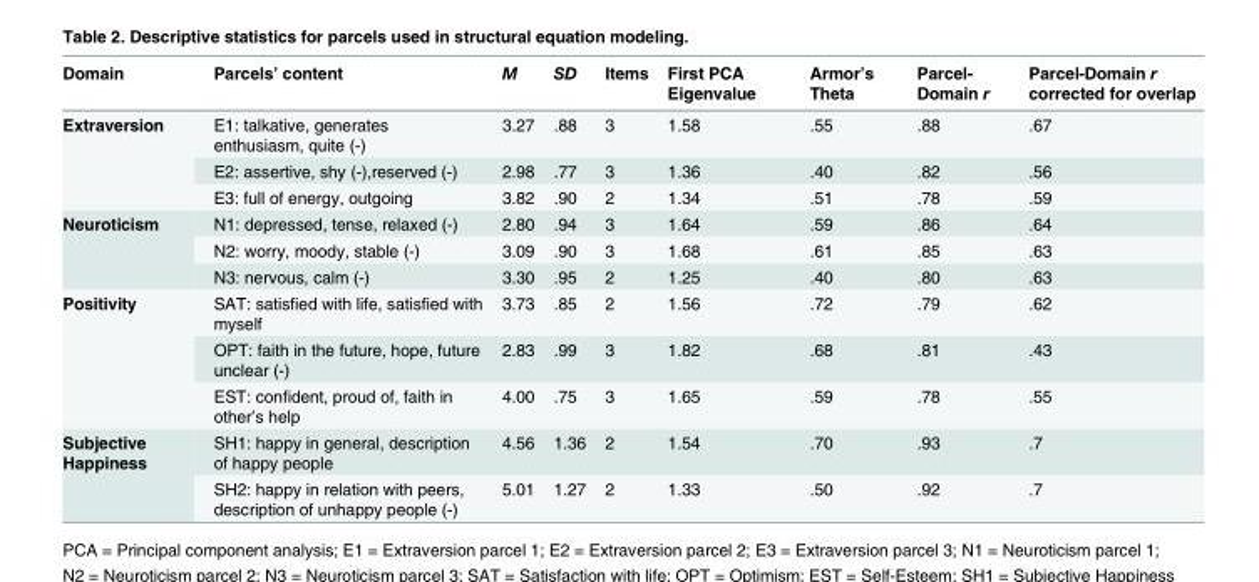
<table><thead><tr><td>Domain</td><td>Parcels’ content</td><td>M</td><td>SD</td><td>Items</td><td>First PCA Eigenvalue</td><td>Armor’s Theta</td><td>Parcel- Domain r</td><td>Parcel-Domain r corrected for overlap</td></tr></thead><tbody><tr><td rowspan="3">Extraversion</td><td>E1: talkative, generates enthusiasm, quite (-)</td><td>3.27</td><td>.88</td><td>3</td><td>1.58</td><td>.55</td><td>.88</td><td>.67</td></tr><tr><td>E2: assertive, shy (-),reserved (-)</td><td>2.98</td><td>.77</td><td>3</td><td>1.36</td><td>.40</td><td>.82</td><td>.56</td></tr><tr><td>E3: full of energy, outgoing</td><td>3.82</td><td>.90</td><td>2</td><td>1.34</td><td>.51</td><td>.78</td><td>.59</td></tr><tr><td rowspan="3">Neuroticism</td><td>N1: depressed, tense, relaxed (-)</td><td>2.80</td><td>.94</td><td>3</td><td>1.64</td><td>.59</td><td>.86</td><td>.64</td></tr><tr><td>N2: worry, moody, stable (-)</td><td>3.09</td><td>.90</td><td>3</td><td>1.68</td><td>.61</td><td>.85</td><td>.63</td></tr><tr><td>N3: nervous, calm (-)</td><td>3.30</td><td>.95</td><td>2</td><td>1.25</td><td>.40</td><td>.80</td><td>.63</td></tr><tr><td rowspan="3">Positivity</td><td>SAT: satisfied with life, satisfied with myself</td><td>3.73</td><td>.85</td><td>2</td><td>1.56</td><td>.72</td><td>.79</td><td>.62</td></tr><tr><td>OPT: faith in the future, hope, future unclear (-)</td><td>2.83</td><td>.99</td><td>3</td><td>1.82</td><td>.68</td><td>.81</td><td>.43</td></tr><tr><td>EST: confident, proud of, faith in other’s help</td><td>4.00</td><td>.75</td><td>3</td><td>1.65</td><td>.59</td><td>.78</td><td>.55</td></tr><tr><td rowspan="2">Subjective Happiness</td><td>SH1: happy in general, description of happy people</td><td>4.56</td><td>1.36</td><td>2</td><td>1.54</td><td>.70</td><td>.93</td><td>.7</td></tr><tr><td>SH2: happy in relation with peers, description of unhappy people (-)</td><td>5.01</td><td>1.27</td><td>2</td><td>1.33</td><td>.50</td><td>.92</td><td>.7</td></tr></tbody></table>